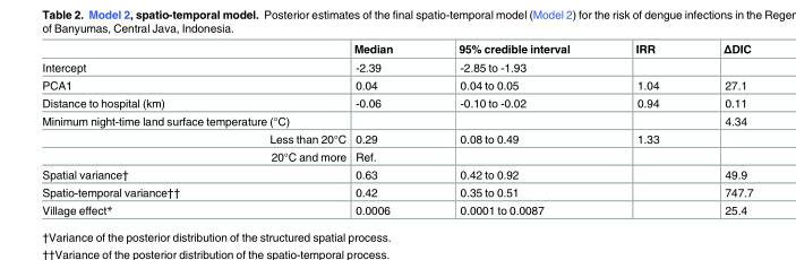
<table><thead><tr><td></td><td>Median</td><td>95% credible interval</td><td>IRR</td><td>ΔDIC</td></tr></thead><tbody><tr><td>Intercept</td><td>-2.39</td><td>-2.85 to -1.93</td><td></td><td></td></tr><tr><td>PCA1</td><td>0.04</td><td>0.04 to 0.05</td><td>1.04</td><td>27.1</td></tr><tr><td>Distance to hospital (km)</td><td>-0.06</td><td>-0.10 to -0.02</td><td>0.94</td><td>0.11</td></tr><tr><td>Minimum night-time land surface temperature (°C)</td><td></td><td></td><td></td><td>4.34</td></tr><tr><td>Less than 20°C</td><td>0.29</td><td>0.08 to 0.49</td><td>1.33</td><td></td></tr><tr><td>20°C and more</td><td>Ref.</td><td></td><td></td><td></td></tr><tr><td>Spatial variance†</td><td>0.63</td><td>0.42 to 0.92</td><td></td><td>49.9</td></tr><tr><td>Spatio-temporal variance††</td><td>0.42</td><td>0.35 to 0.51</td><td></td><td>747.7</td></tr><tr><td>Village effect*</td><td>0.0006</td><td>0.0001 to 0.0087</td><td></td><td>25.4</td></tr></tbody></table>